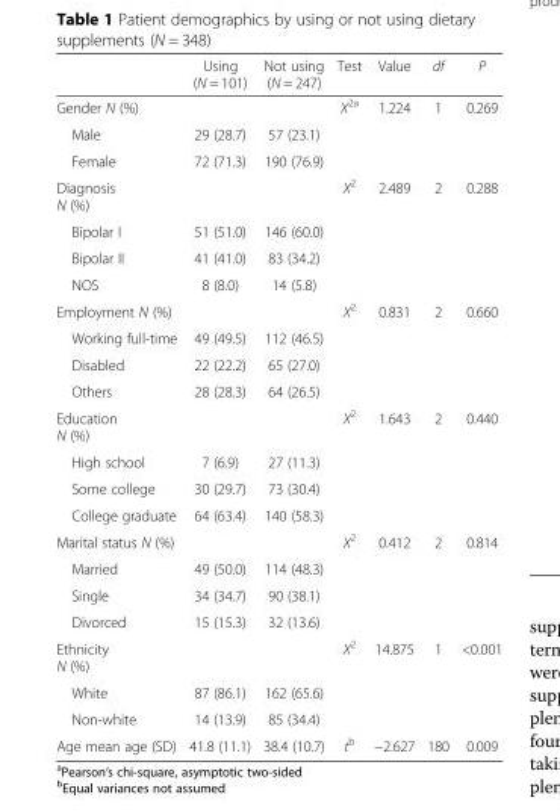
<table><thead><tr><td></td><td>Using (N = 101)</td><td>Not using (N = 247)</td><td>Test</td><td>Value</td><td>df</td><td>P</td></tr></thead><tbody><tr><td>Gender N (%)</td><td></td><td></td><td>Χ<sup>2a</sup></td><td>1.224</td><td>1</td><td>0.269</td></tr><tr><td>Male</td><td>29 (28.7)</td><td>57 (23.1)</td><td></td><td></td><td></td><td></td></tr><tr><td>Female</td><td>72 (71.3)</td><td>190 (76.9)</td><td></td><td></td><td></td><td></td></tr><tr><td>Diagnosis N (%)</td><td></td><td></td><td>Χ<sup>2</sup></td><td>2.489</td><td>2</td><td>0.288</td></tr><tr><td>Bipolar I</td><td>51 (51.0)</td><td>146 (60.0)</td><td></td><td></td><td></td><td></td></tr><tr><td>Bipolar II</td><td>41 (41.0)</td><td>83 (34.2)</td><td></td><td></td><td></td><td></td></tr><tr><td>NOS</td><td>8 (8.0)</td><td>14 (5.8)</td><td></td><td></td><td></td><td></td></tr><tr><td>Employment N (%)</td><td></td><td></td><td>Χ<sup>2</sup></td><td>0.831</td><td>2</td><td>0.660</td></tr><tr><td>Working full-time</td><td>49 (49.5)</td><td>112 (46.5)</td><td></td><td></td><td></td><td></td></tr><tr><td>Disabled</td><td>22 (22.2)</td><td>65 (27.0)</td><td></td><td></td><td></td><td></td></tr><tr><td>Others</td><td>28 (28.3)</td><td>64 (26.5)</td><td></td><td></td><td></td><td></td></tr><tr><td>Education N (%)</td><td></td><td></td><td>Χ<sup>2</sup></td><td>1.643</td><td>2</td><td>0.440</td></tr><tr><td>High school</td><td>7 (6.9)</td><td>27 (11.3)</td><td></td><td></td><td></td><td></td></tr><tr><td>Some college</td><td>30 (29.7)</td><td>73 (30.4)</td><td></td><td></td><td></td><td></td></tr><tr><td>College graduate</td><td>64 (63.4)</td><td>140 (58.3)</td><td></td><td></td><td></td><td></td></tr><tr><td>Marital status N (%)</td><td></td><td></td><td>Χ<sup>2</sup></td><td>0.412</td><td>2</td><td>0.814</td></tr><tr><td>Married</td><td>49 (50.0)</td><td>114 (48.3)</td><td></td><td></td><td></td><td></td></tr><tr><td>Single</td><td>34 (34.7)</td><td>90 (38.1)</td><td></td><td></td><td></td><td></td></tr><tr><td>Divorced</td><td>15 (15.3)</td><td>32 (13.6)</td><td></td><td></td><td></td><td></td></tr><tr><td>Ethnicity N (%)</td><td></td><td></td><td>Χ<sup>2</sup></td><td>14.875</td><td>1</td><td>&lt;0.001</td></tr><tr><td>White</td><td>87 (86.1)</td><td>162 (65.6)</td><td></td><td></td><td></td><td></td></tr><tr><td>Non-white</td><td>14 (13.9)</td><td>85 (34.4)</td><td></td><td></td><td></td><td></td></tr><tr><td>Age mean age (SD)</td><td>41.8 (11.1)</td><td>38.4 (10.7)</td><td>t<sup>b</sup></td><td>−2.627</td><td>180</td><td>0.009</td></tr></tbody></table>